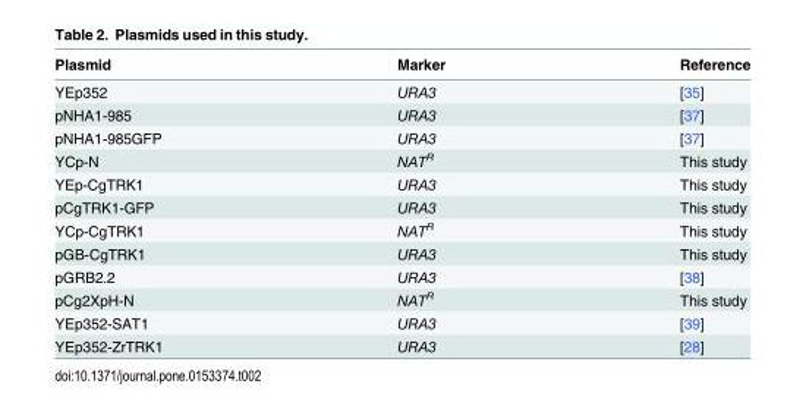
<table><thead><tr><td>Plasmid</td><td>Marker</td><td>Reference</td></tr></thead><tbody><tr><td>YEp352</td><td>URA3</td><td>[35]</td></tr><tr><td>pNHA1-985</td><td>URA3</td><td>[37]</td></tr><tr><td>pNHA1-985GFP</td><td>URA3</td><td>[37]</td></tr><tr><td>YCp-N</td><td>NAT<sup>R</sup></td><td>This study</td></tr><tr><td>YEp-CgTRK1</td><td>URA3</td><td>This study</td></tr><tr><td>pCgTRK1-GFP</td><td>URA3</td><td>This study</td></tr><tr><td>YCp-CgTRK1</td><td>NAT<sup>R</sup></td><td>This study</td></tr><tr><td>pGB-CgTRK1</td><td>URA3</td><td>This study</td></tr><tr><td>pGRB2.2</td><td>URA3</td><td>[38]</td></tr><tr><td>pCg2XpH-N</td><td>NAT<sup>R</sup></td><td>This study</td></tr><tr><td>YEp352-SAT1</td><td>URA3</td><td>[39]</td></tr><tr><td>YEp352-ZrTRK1</td><td>URA3</td><td>[28]</td></tr></tbody></table>